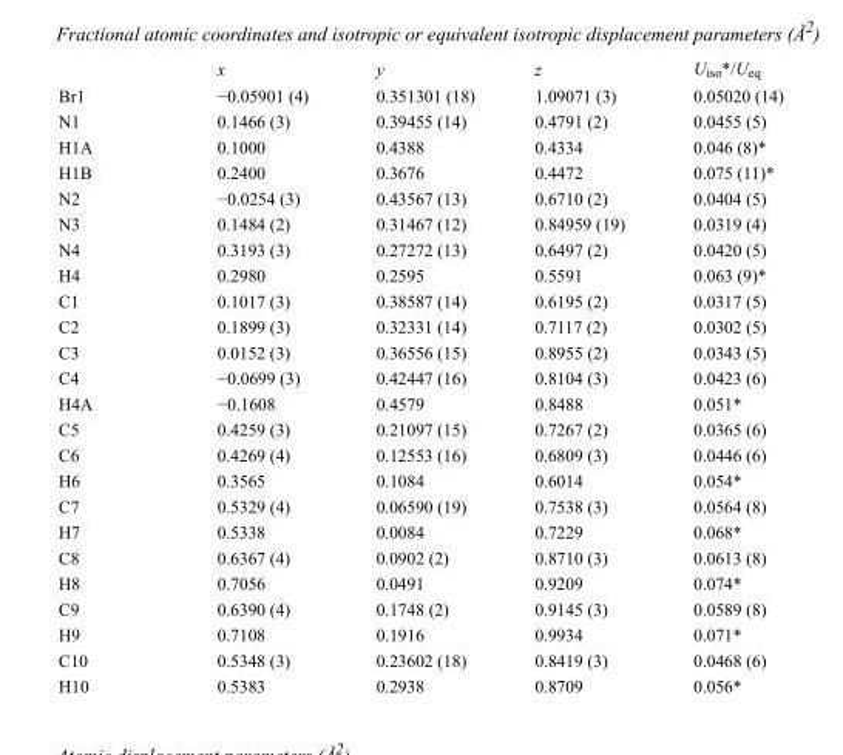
<table><thead><tr><td></td><td>x</td><td>y</td><td>z</td><td>U<sub>iso</sub>*/U<sub>eq</sub></td></tr></thead><tbody><tr><td>Br1</td><td>−0.05901 (4)</td><td>0.351301 (18)</td><td>1.09071 (3)</td><td>0.05020 (14)</td></tr><tr><td>N1</td><td>0.1466 (3)</td><td>0.39455 (14)</td><td>0.4791 (2)</td><td>0.0455 (5)</td></tr><tr><td>H1A</td><td>0.1000</td><td>0.4388</td><td>0.4334</td><td>0.046 (8)*</td></tr><tr><td>H1B</td><td>0.2400</td><td>0.3676</td><td>0.4472</td><td>0.075 (11)*</td></tr><tr><td>N2</td><td>−0.0254 (3)</td><td>0.43567 (13)</td><td>0.6710 (2)</td><td>0.0404 (5)</td></tr><tr><td>N3</td><td>0.1484 (2)</td><td>0.31467 (12)</td><td>0.84959 (19)</td><td>0.0319 (4)</td></tr><tr><td>N4</td><td>0.3193 (3)</td><td>0.27272 (13)</td><td>0.6497 (2)</td><td>0.0420 (5)</td></tr><tr><td>H4</td><td>0.2980</td><td>0.2595</td><td>0.5591</td><td>0.063 (9)*</td></tr><tr><td>C1</td><td>0.1017 (3)</td><td>0.38587 (14)</td><td>0.6195 (2)</td><td>0.0317 (5)</td></tr><tr><td>C2</td><td>0.1899 (3)</td><td>0.32331 (14)</td><td>0.7117 (2)</td><td>0.0302 (5)</td></tr><tr><td>C3</td><td>0.0152 (3)</td><td>0.36556 (15)</td><td>0.8955 (2)</td><td>0.0343 (5)</td></tr><tr><td>C4</td><td>−0.0699 (3)</td><td>0.42447 (16)</td><td>0.8104 (3)</td><td>0.0423 (6)</td></tr><tr><td>H4A</td><td>−0.1608</td><td>0.4579</td><td>0.8488</td><td>0.051*</td></tr><tr><td>C5</td><td>0.4259 (3)</td><td>0.21097 (15)</td><td>0.7267 (2)</td><td>0.0365 (6)</td></tr><tr><td>C6</td><td>0.4269 (4)</td><td>0.12553 (16)</td><td>0.6809 (3)</td><td>0.0446 (6)</td></tr><tr><td>H6</td><td>0.3565</td><td>0.1084</td><td>0.6014</td><td>0.054*</td></tr><tr><td>C7</td><td>0.5329 (4)</td><td>0.06590 (19)</td><td>0.7538 (3)</td><td>0.0564 (8)</td></tr><tr><td>H7</td><td>0.5338</td><td>0.0084</td><td>0.7229</td><td>0.068*</td></tr><tr><td>C8</td><td>0.6367 (4)</td><td>0.0902 (2)</td><td>0.8710 (3)</td><td>0.0613 (8)</td></tr><tr><td>H8</td><td>0.7056</td><td>0.0491</td><td>0.9209</td><td>0.074*</td></tr><tr><td>C9</td><td>0.6390 (4)</td><td>0.1748 (2)</td><td>0.9145 (3)</td><td>0.0589 (8)</td></tr><tr><td>H9</td><td>0.7108</td><td>0.1916</td><td>0.9934</td><td>0.071*</td></tr><tr><td>C10</td><td>0.5348 (3)</td><td>0.23602 (18)</td><td>0.8419 (3)</td><td>0.0468 (6)</td></tr><tr><td>H10</td><td>0.5383</td><td>0.2938</td><td>0.8709</td><td>0.056*</td></tr></tbody></table>